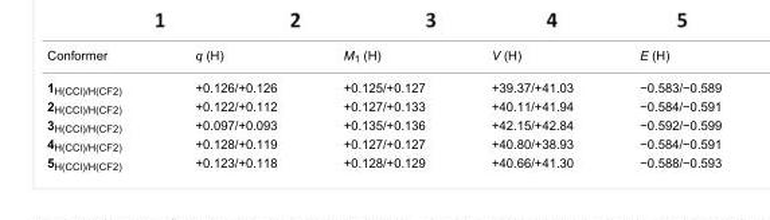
<table><tbody><tr><td>Conformer</td><td>q (H)</td><td>M<sub>1</sub> (H)</td><td>V (H)</td><td>E (H)</td></tr><tr><td>1<sub>H(CCl)/H(CF2)</sub></td><td>+0.126/+0.126</td><td>+0.125/+0.127</td><td>+39.37/+41.03</td><td>−0.583/−0.589</td></tr><tr><td>2<sub>H(CCl)/H(CF2)</sub></td><td>+0.122/+0.112</td><td>+0.127/+0.133</td><td>+40.11/+41.94</td><td>−0.584/−0.591</td></tr><tr><td>3<sub>H(CCl)/H(CF2)</sub></td><td>+0.097/+0.093</td><td>+0.135/+0.136</td><td>+42.15/+42.84</td><td>−0.592/−0.599</td></tr><tr><td>4<sub>H(CCl)/H(CF2)</sub></td><td>+0.128/+0.119</td><td>+0.127/+0.127</td><td>+40.80/+38.93</td><td>−0.584/−0.591</td></tr><tr><td>5<sub>H(CCl)/H(CF2)</sub></td><td>+0.123/+0.118</td><td>+0.128/+0.129</td><td>+40.66/+41.30</td><td>−0.588/−0.593</td></tr></tbody></table>